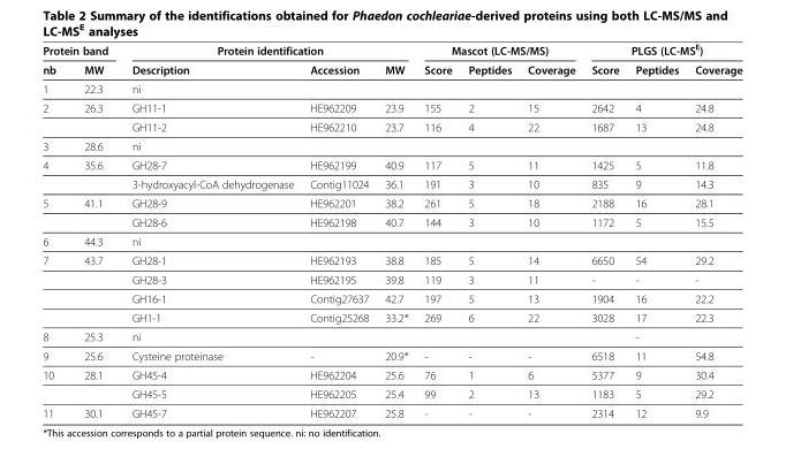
<table><thead><tr><td colspan="2">Protein band</td><td colspan="3">Protein identification</td><td colspan="3">Mascot (LC-MS/MS)</td><td colspan="3">PLGS (LC-MS<sup>E</sup>)</td></tr><tr><td>nb</td><td>MW</td><td>Description</td><td>Accession</td><td>MW</td><td>Score</td><td>Peptides</td><td>Coverage</td><td>Score</td><td>Peptides</td><td>Coverage</td></tr></thead><tbody><tr><td>1</td><td>22.3</td><td>ni</td><td></td><td></td><td></td><td></td><td></td><td></td><td></td><td></td></tr><tr><td rowspan="2">2</td><td>26.3</td><td>GH11-1</td><td>HE962209</td><td>23.9</td><td>155</td><td>2</td><td>15</td><td>2642</td><td>4</td><td>24.8</td></tr><tr><td></td><td>GH11-2</td><td>HE962210</td><td>23.7</td><td>116</td><td>4</td><td>22</td><td>1687</td><td>13</td><td>24.8</td></tr><tr><td>3</td><td>28.6</td><td>ni</td><td></td><td></td><td></td><td></td><td></td><td></td><td></td><td></td></tr><tr><td rowspan="2">4</td><td>35.6</td><td>GH28-7</td><td>HE962199</td><td>40.9</td><td>117</td><td>5</td><td>11</td><td>1425</td><td>5</td><td>11.8</td></tr><tr><td></td><td>3-hydroxyacyl-CoA dehydrogenase</td><td>Contig11024</td><td>36.1</td><td>191</td><td>3</td><td>10</td><td>835</td><td>9</td><td>14.3</td></tr><tr><td rowspan="2">5</td><td>41.1</td><td>GH28-9</td><td>HE962201</td><td>38.2</td><td>261</td><td>5</td><td>18</td><td>2188</td><td>16</td><td>28.1</td></tr><tr><td></td><td>GH28-6</td><td>HE962198</td><td>40.7</td><td>144</td><td>3</td><td>10</td><td>1172</td><td>5</td><td>15.5</td></tr><tr><td>6</td><td>44.3</td><td>ni</td><td></td><td></td><td></td><td></td><td></td><td></td><td></td><td></td></tr><tr><td rowspan="4">7</td><td>43.7</td><td>GH28-1</td><td>HE962193</td><td>38.8</td><td>185</td><td>5</td><td>14</td><td>6650</td><td>54</td><td>29.2</td></tr><tr><td></td><td>GH28-3</td><td>HE962195</td><td>39.8</td><td>119</td><td>3</td><td>11</td><td>-</td><td>-</td><td>-</td></tr><tr><td></td><td>GH16-1</td><td>Contig27637</td><td>42.7</td><td>197</td><td>5</td><td>13</td><td>1904</td><td>16</td><td>22.2</td></tr><tr><td></td><td>GH1-1</td><td>Contig25268</td><td>33.2*</td><td>269</td><td>6</td><td>22</td><td>3028</td><td>17</td><td>22.3</td></tr><tr><td>8</td><td>25.3</td><td>ni</td><td></td><td></td><td></td><td></td><td></td><td></td><td>-</td><td></td></tr><tr><td>9</td><td>25.6</td><td>Cysteine proteinase</td><td>-</td><td>20.9*</td><td>-</td><td>-</td><td>-</td><td>6518</td><td>11</td><td>54.8</td></tr><tr><td rowspan="2">10</td><td>28.1</td><td>GH45-4</td><td>HE962204</td><td>25.6</td><td>76</td><td>1</td><td>6</td><td>5377</td><td>9</td><td>30.4</td></tr><tr><td></td><td>GH45-5</td><td>HE962205</td><td>25.4</td><td>99</td><td>2</td><td>13</td><td>1183</td><td>5</td><td>29.2</td></tr><tr><td>11</td><td>30.1</td><td>GH45-7</td><td>HE962207</td><td>25.8</td><td>-</td><td>-</td><td>-</td><td>2314</td><td>12</td><td>9.9</td></tr></tbody></table>